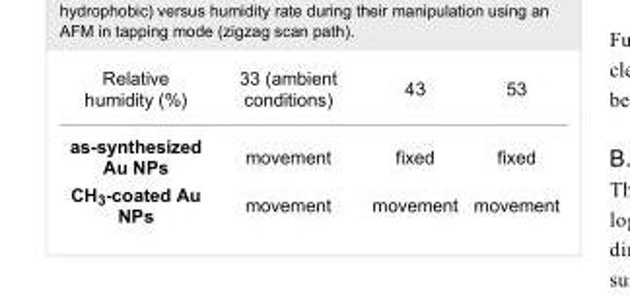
<table><tbody><tr><td>Relative humidity (%)</td><td>33 (ambient conditions)</td><td>43</td><td>53</td></tr><tr><td>as-synthesized Au NPs</td><td>movement</td><td>fixed</td><td>fixed</td></tr><tr><td>CH<sub>3</sub>-coated Au NPs</td><td>movement</td><td>movement</td><td>movement</td></tr></tbody></table>